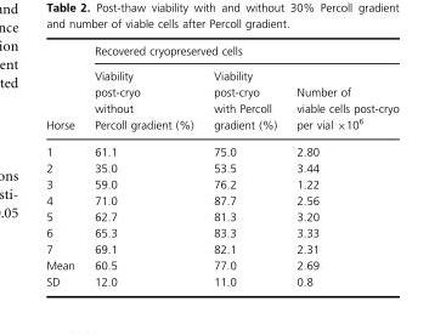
<table><thead><tr><td rowspan="2">Horse</td><td colspan="3">Recovered cryopreserved cells</td></tr><tr><td>Viability post-cryo without Percoll gradient (%)</td><td>Viability post-cryo with Percoll gradient (%)</td><td>Number of viable cells post-cryo per vial ×10<sup>6</sup></td></tr></thead><tbody><tr><td>1</td><td>61.1</td><td>75.0</td><td>2.80</td></tr><tr><td>2</td><td>35.0</td><td>53.5</td><td>3.44</td></tr><tr><td>3</td><td>59.0</td><td>76.2</td><td>1.22</td></tr><tr><td>4</td><td>71.0</td><td>87.7</td><td>2.56</td></tr><tr><td>5</td><td>62.7</td><td>81.3</td><td>3.20</td></tr><tr><td>6</td><td>65.3</td><td>83.3</td><td>3.33</td></tr><tr><td>7</td><td>69.1</td><td>82.1</td><td>2.31</td></tr><tr><td>Mean</td><td>60.5</td><td>77.0</td><td>2.69</td></tr><tr><td>SD</td><td>12.0</td><td>11.0</td><td>0.8</td></tr></tbody></table>